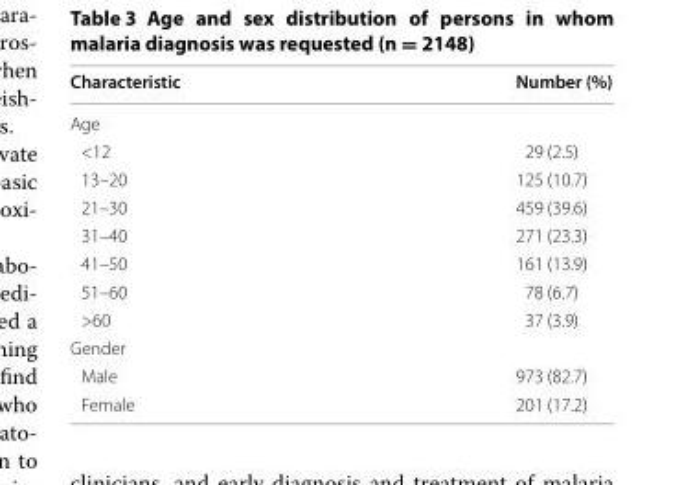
<table><thead><tr><td>Characteristic</td><td>Number (%)</td></tr></thead><tbody><tr><td colspan="2">Age</td></tr><tr><td>&lt;12</td><td>29 (2.5)</td></tr><tr><td>13–20</td><td>125 (10.7)</td></tr><tr><td>21–30</td><td>459 (39.6)</td></tr><tr><td>31–40</td><td>271 (23.3)</td></tr><tr><td>41–50</td><td>161 (13.9)</td></tr><tr><td>51–60</td><td>78 (6.7)</td></tr><tr><td>&gt;60</td><td>37 (3.9)</td></tr><tr><td colspan="2">Gender</td></tr><tr><td>Male</td><td>973 (82.7)</td></tr><tr><td>Female</td><td>201 (17.2)</td></tr></tbody></table>